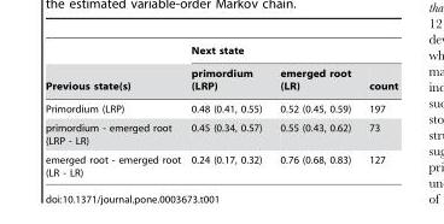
<table><thead><tr><td rowspan="2">Previous state(s)</td><td colspan="3">Next state</td></tr><tr><td>primordium (LRP)</td><td>emerged root (LR)</td><td>count</td></tr></thead><tbody><tr><td>Primordium (LRP)</td><td>0.48 (0.41, 0.55)</td><td>0.52 (0.45, 0.59)</td><td>197</td></tr><tr><td>primordium - emerged root (LRP - LR)</td><td>0.45 (0.34, 0.57)</td><td>0.55 (0.43, 0.62)</td><td>73</td></tr><tr><td>emerged root - emerged root (LR - LR)</td><td>0.24 (0.17, 0.32)</td><td>0.76 (0.68, 0.83)</td><td>127</td></tr></tbody></table>